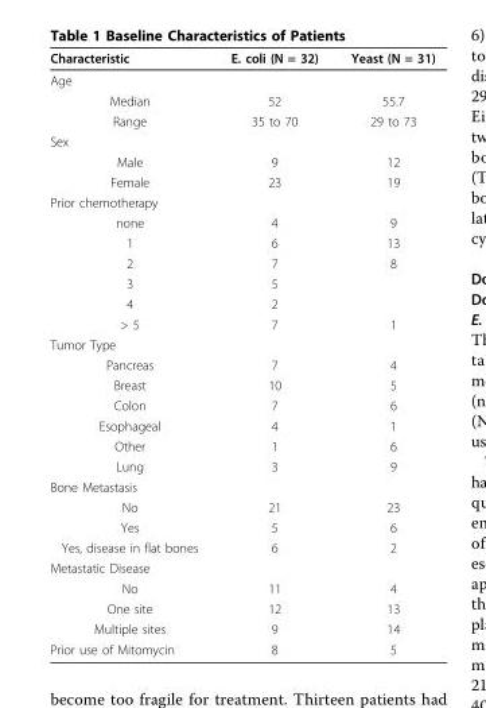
<table><thead><tr><td>Characteristic</td><td>E. coli (N = 32)</td><td>Yeast (N = 31)</td></tr></thead><tbody><tr><td colspan="3">Age</td></tr><tr><td>Median</td><td>52</td><td>55.7</td></tr><tr><td>Range</td><td>35 to 70</td><td>29 to 73</td></tr><tr><td colspan="3">Sex</td></tr><tr><td>Male</td><td>9</td><td>12</td></tr><tr><td>Female</td><td>23</td><td>19</td></tr><tr><td colspan="3">Prior chemotherapy</td></tr><tr><td>none</td><td>4</td><td>9</td></tr><tr><td>1</td><td>6</td><td>13</td></tr><tr><td>2</td><td>7</td><td>8</td></tr><tr><td>3</td><td>5</td><td></td></tr><tr><td>4</td><td>2</td><td></td></tr><tr><td>&gt; 5</td><td>7</td><td>1</td></tr><tr><td colspan="3">Tumor Type</td></tr><tr><td>Pancreas</td><td>7</td><td>4</td></tr><tr><td>Breast</td><td>10</td><td>5</td></tr><tr><td>Colon</td><td>7</td><td>6</td></tr><tr><td>Esophageal</td><td>4</td><td>1</td></tr><tr><td>Other</td><td>1</td><td>6</td></tr><tr><td>Lung</td><td>3</td><td>9</td></tr><tr><td colspan="3">Bone Metastasis</td></tr><tr><td>No</td><td>21</td><td>23</td></tr><tr><td>Yes</td><td>5</td><td>6</td></tr><tr><td>Yes, disease in flat bones</td><td>6</td><td>2</td></tr><tr><td colspan="3">Metastatic Disease</td></tr><tr><td>No</td><td>11</td><td>4</td></tr><tr><td>One site</td><td>12</td><td>13</td></tr><tr><td>Multiple sites</td><td>9</td><td>14</td></tr><tr><td>Prior use of Mitomycin</td><td>8</td><td>5</td></tr></tbody></table>